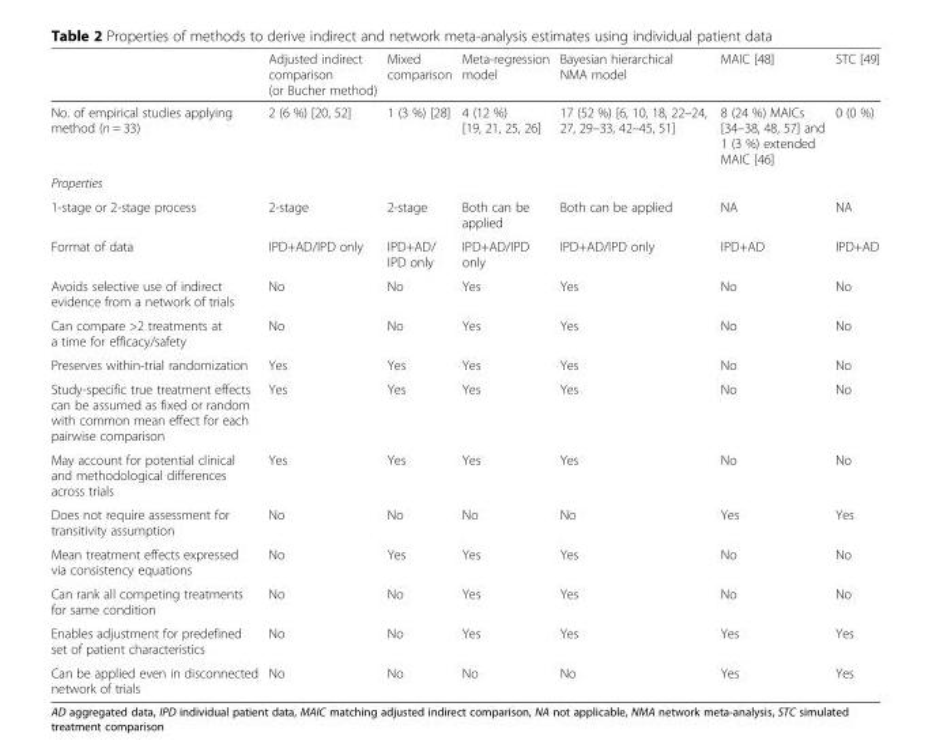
<table><thead><tr><td></td><td>Adjusted indirect comparison (or Bucher method)</td><td>Mixed comparison</td><td>Meta-regression model</td><td>Bayesian hierarchical NMA model</td><td>MAIC [48]</td><td>STC [49]</td></tr></thead><tbody><tr><td>No. of empirical studies applying method (n = 33)</td><td>2 (6 %) [20, 52]</td><td>1 (3 %) [28]</td><td>4 (12 %) [19, 21, 25, 26]</td><td>17 (52 %) [6, 10, 18, 22–24, 27, 29–33, 42–45, 51]</td><td>8 (24 %) MAICs [34–38, 48, 57] and 1 (3 %) extended MAIC [46]</td><td>0 (0 %)</td></tr><tr><td colspan="7">Properties</td></tr><tr><td>1-stage or 2-stage process</td><td>2-stage</td><td>2-stage</td><td>Both can be applied</td><td>Both can be applied</td><td>NA</td><td>NA</td></tr><tr><td>Format of data</td><td>IPD+AD/IPD only</td><td>IPD+AD/ IPD only</td><td>IPD+AD/IPD only</td><td>IPD+AD/IPD only</td><td>IPD+AD</td><td>IPD+AD</td></tr><tr><td>Avoids selective use of indirect evidence from a network of trials</td><td>No</td><td>No</td><td>Yes</td><td>Yes</td><td>No</td><td>No</td></tr><tr><td>Can compare &gt;2 treatments at a time for efficacy/safety</td><td>No</td><td>No</td><td>Yes</td><td>Yes</td><td>No</td><td>No</td></tr><tr><td>Preserves within-trial randomization</td><td>Yes</td><td>Yes</td><td>Yes</td><td>Yes</td><td>No</td><td>No</td></tr><tr><td>Study-specific true treatment effects can be assumed as fixed or random with common mean effect for each pairwise comparison</td><td>Yes</td><td>Yes</td><td>Yes</td><td>Yes</td><td>No</td><td>No</td></tr><tr><td>May account for potential clinical and methodological differences across trials</td><td>Yes</td><td>Yes</td><td>Yes</td><td>Yes</td><td>No</td><td>No</td></tr><tr><td>Does not require assessment for transitivity assumption</td><td>No</td><td>No</td><td>No</td><td>No</td><td>Yes</td><td>Yes</td></tr><tr><td>Mean treatment effects expressed via consistency equations</td><td>No</td><td>Yes</td><td>Yes</td><td>Yes</td><td>No</td><td>No</td></tr><tr><td>Can rank all competing treatments for same condition</td><td>No</td><td>No</td><td>Yes</td><td>Yes</td><td>No</td><td>No</td></tr><tr><td>Enables adjustment for predefined set of patient characteristics</td><td>No</td><td>No</td><td>Yes</td><td>Yes</td><td>Yes</td><td>Yes</td></tr><tr><td>Can be applied even in disconnected network of trials</td><td>No</td><td>No</td><td>No</td><td>No</td><td>Yes</td><td>Yes</td></tr></tbody></table>